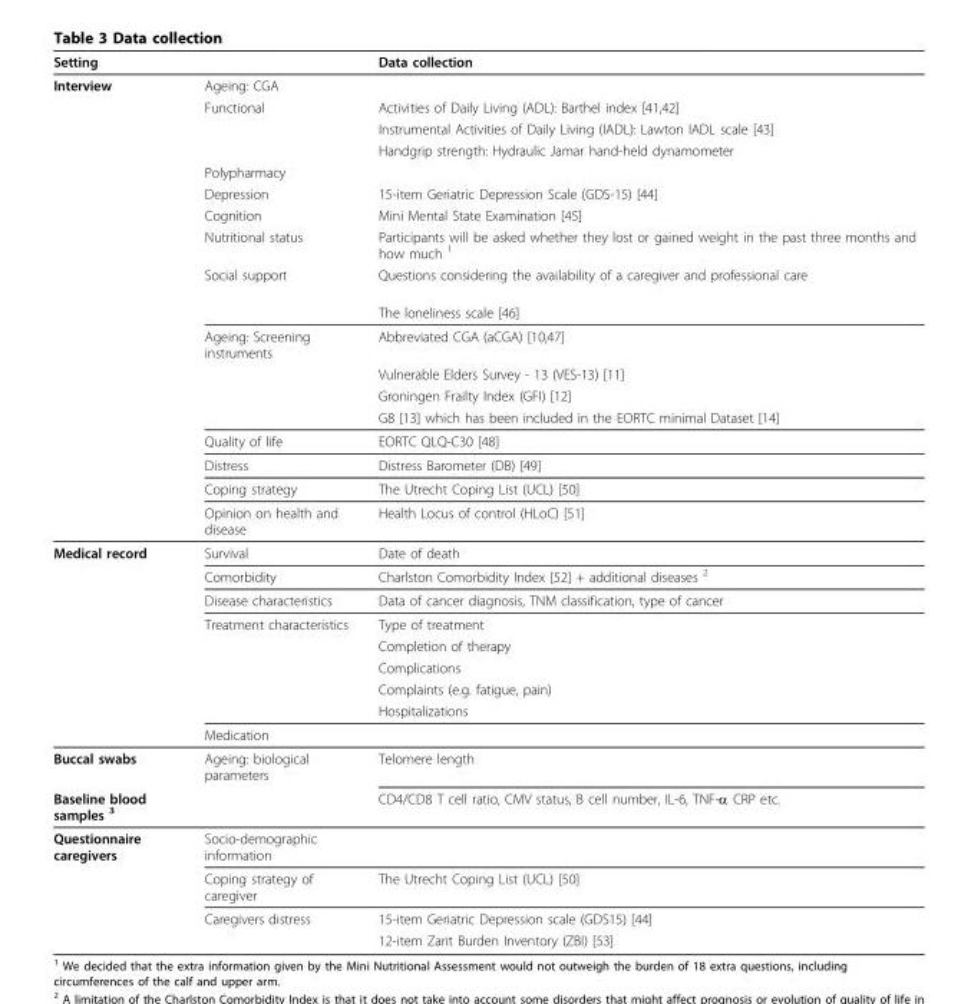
<table><thead><tr><td>Setting</td><td></td><td>Data collection</td></tr></thead><tbody><tr><td rowspan="18">Interview</td><td>Ageing: CGA</td><td></td></tr><tr><td>Functional</td><td>Activities of Daily Living (ADL): Barthel index [41,42]</td></tr><tr><td></td><td>Instrumental Activities of Daily Living (IADL): Lawton IADL scale [43]</td></tr><tr><td></td><td>Handgrip strength: Hydraulic Jamar hand-held dynamometer</td></tr><tr><td>Polypharmacy</td><td></td></tr><tr><td>Depression</td><td>15-item Geriatric Depression Scale (GDS-15) [44]</td></tr><tr><td>Cognition</td><td>Mini Mental State Examination [45]</td></tr><tr><td>Nutritional status</td><td>Participants will be asked whether they lost or gained weight in the past three months and how much <sup>1</sup></td></tr><tr><td>Social support</td><td>Questions considering the availability of a caregiver and professional care</td></tr><tr><td></td><td>The loneliness scale [46]</td></tr><tr><td>Ageing: Screening instruments</td><td>Abbreviated CGA (aCGA) [10,47]</td></tr><tr><td></td><td>Vulnerable Elders Survey - 13 (VES-13) [11]</td></tr><tr><td></td><td>Groningen Frailty Index (GFI) [12]</td></tr><tr><td></td><td>G8 [13] which has been included in the EORTC minimal Dataset [14]</td></tr><tr><td>Quality of life</td><td>EORTC QLQ-C30 [48]</td></tr><tr><td>Distress</td><td>Distress Barometer (DB) [49]</td></tr><tr><td>Coping strategy</td><td>The Utrecht Coping List (UCL) [50]</td></tr><tr><td>Opinion on health and disease</td><td>Health Locus of control (HLoC) [51]</td></tr><tr><td rowspan="9">Medical record</td><td>Survival</td><td>Date of death</td></tr><tr><td>Comorbidity</td><td>Charlston Comorbidity Index [52] + additional diseases <sup>2</sup></td></tr><tr><td>Disease characteristics</td><td>Data of cancer diagnosis, TNM classification, type of cancer</td></tr><tr><td>Treatment characteristics</td><td>Type of treatment</td></tr><tr><td></td><td>Completion of therapy</td></tr><tr><td></td><td>Complications</td></tr><tr><td></td><td>Complaints (e.g. fatigue, pain)</td></tr><tr><td></td><td>Hospitalizations</td></tr><tr><td>Medication</td><td></td></tr><tr><td>Buccal swabs</td><td>Ageing: biological parameters</td><td>Telomere length</td></tr><tr><td>Baseline blood samples <sup>3</sup></td><td></td><td>CD4/CD8 T cell ratio, CMV status, B cell number, IL-6, TNF-α CRP etc.</td></tr><tr><td rowspan="4">Questionnaire caregivers</td><td>Socio-demographic information</td><td></td></tr><tr><td>Coping strategy of caregiver</td><td>The Utrecht Coping List (UCL) [50]</td></tr><tr><td>Caregivers distress</td><td>15-item Geriatric Depression scale (GDS15) [44]</td></tr><tr><td></td><td>12-item Zarit Burden Inventory (ZBI) [53]</td></tr></tbody></table>